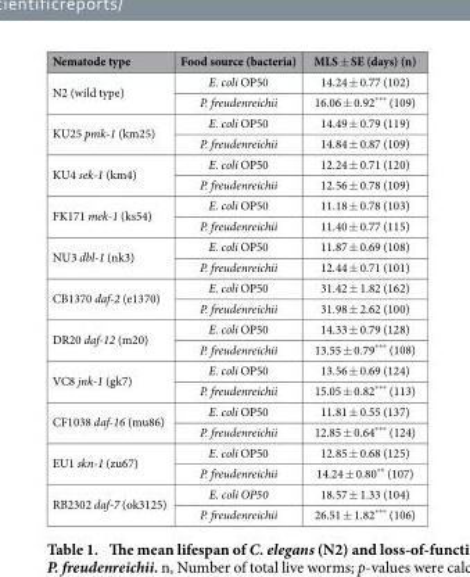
<table><thead><tr><td>Nematode type</td><td>Food source (bacteria)</td><td>MLS ± SE (days) (n)</td></tr></thead><tbody><tr><td rowspan="2">N2 (wild type)</td><td>E. coli OP50</td><td>14.24 ± 0.77 (102)</td></tr><tr><td>P. freudenreichii</td><td>16.06 ± 0.92*** (109)</td></tr><tr><td rowspan="2">KU25 pmk-1 (km25)</td><td>E. coli OP50</td><td>14.49 ± 0.79 (119)</td></tr><tr><td>P. freudenreichii</td><td>14.84 ± 0.87 (109)</td></tr><tr><td rowspan="2">KU4 sek-1 (km4)</td><td>E. coli OP50</td><td>12.24 ± 0.71 (120)</td></tr><tr><td>P. freudenreichii</td><td>12.56 ± 0.78 (109)</td></tr><tr><td rowspan="2">FK171 mek-1 (ks54)</td><td>E. coli OP50</td><td>11.18 ± 0.78 (103)</td></tr><tr><td>P. freudenreichii</td><td>11.40 ± 0.77 (115)</td></tr><tr><td rowspan="2">NU3 dbl-1 (nk3)</td><td>E. coli OP50</td><td>11.87 ± 0.69 (108)</td></tr><tr><td>P. freudenreichii</td><td>12.44 ± 0.71 (101)</td></tr><tr><td rowspan="2">CB1370 daf-2 (e1370)</td><td>E. coli OP50</td><td>31.42 ± 1.82 (162)</td></tr><tr><td>P. freudenreichii</td><td>31.98 ± 2.62 (100)</td></tr><tr><td rowspan="2">DR20 daf-12 (m20)</td><td>E. coli OP50</td><td>14.33 ± 0.79 (128)</td></tr><tr><td>P. freudenreichii</td><td>13.55 ± 0.79*** (108)</td></tr><tr><td rowspan="2">VC8 jnk-1 (gk7)</td><td>E. coli OP50</td><td>13.56 ± 0.69 (124)</td></tr><tr><td>P. freudenreichii</td><td>15.05 ± 0.82*** (113)</td></tr><tr><td rowspan="2">CF1038 daf-16 (mu86)</td><td>E. coli OP50</td><td>11.81 ± 0.55 (137)</td></tr><tr><td>P. freudenreichii</td><td>12.85 ± 0.64*** (124)</td></tr><tr><td rowspan="2">EU1 skn-1 (zu67)</td><td>E. coli OP50</td><td>12.85 ± 0.68 (125)</td></tr><tr><td>P. freudenreichii</td><td>14.24 ± 0.80** (107)</td></tr><tr><td rowspan="2">RB2302 daf-7 (ok3125)</td><td>E. coli OP50</td><td>18.57 ± 1.33 (104)</td></tr><tr><td>P. freudenreichii</td><td>26.51 ± 1.82*** (106)</td></tr></tbody></table>